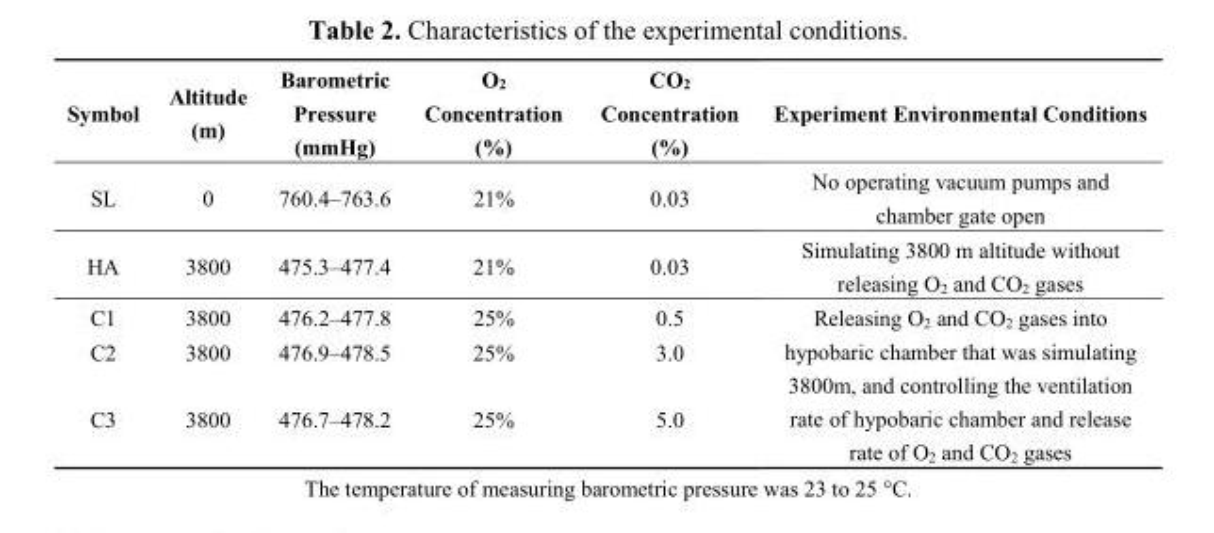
<table><thead><tr><td>Symbol</td><td>Altitude (m)</td><td>Barometric Pressure (mmHg)</td><td>O<sub>2</sub> Concentration (%)</td><td>CO<sub>2</sub> Concentration (%)</td><td>Experiment Environmental Conditions</td></tr></thead><tbody><tr><td>SL</td><td>0</td><td>760.4–763.6</td><td>21%</td><td>0.03</td><td>No operating vacuum pumps and chamber gate open</td></tr><tr><td>HA</td><td>3800</td><td>475.3–477.4</td><td>21%</td><td>0.03</td><td>Simulating 3800 m altitude without releasing O<sub>2</sub> and CO<sub>2</sub> gases</td></tr><tr><td>C1</td><td>3800</td><td>476.2–477.8</td><td>25%</td><td>0.5</td><td rowspan="3">Releasing O<sub>2</sub> and CO<sub>2</sub> gases into hypobaric chamber that was simulating 3800m, and controlling the ventilation rate of hypobaric chamber and release rate of O<sub>2</sub> and CO<sub>2</sub> gases</td></tr><tr><td>C2</td><td>3800</td><td>476.9–478.5</td><td>25%</td><td>3.0</td></tr><tr><td>C3</td><td>3800</td><td>476.7–478.2</td><td>25%</td><td>5.0</td></tr></tbody></table>